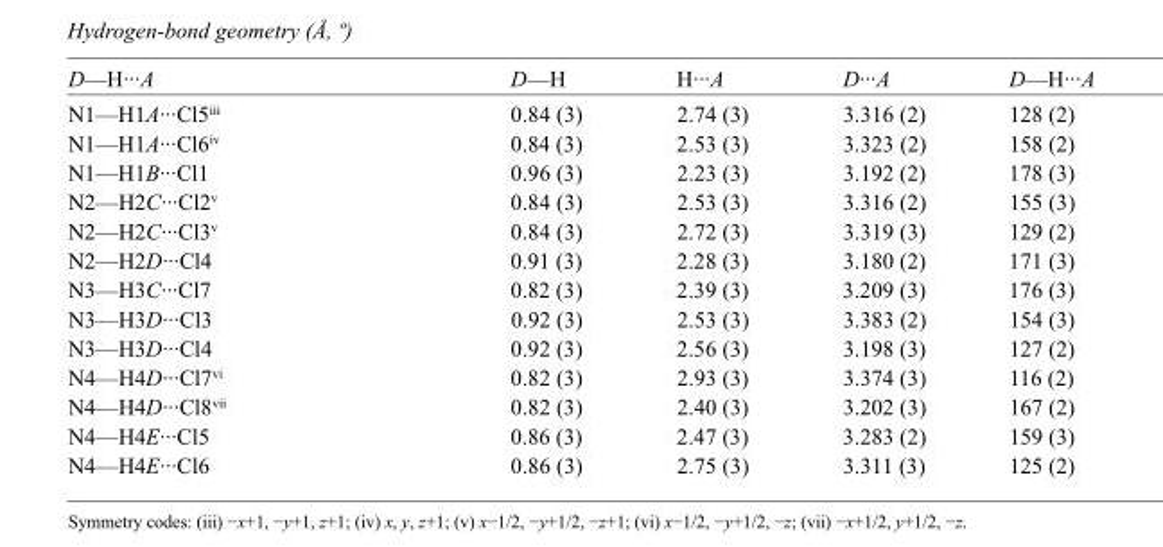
<table><tbody><tr><td>D—H···A</td><td>D—H</td><td>H···A</td><td>D···A</td><td>D—H···A</td></tr><tr><td>N1—H1A···Cl5<sup>iii</sup></td><td>0.84 (3)</td><td>2.74 (3)</td><td>3.316 (2)</td><td>128 (2)</td></tr><tr><td>N1—H1A···Cl6<sup>iv</sup></td><td>0.84 (3)</td><td>2.53 (3)</td><td>3.323 (2)</td><td>158 (2)</td></tr><tr><td>N1—H1B···Cl1</td><td>0.96 (3)</td><td>2.23 (3)</td><td>3.192 (2)</td><td>178 (3)</td></tr><tr><td>N2—H2C···Cl2<sup>v</sup></td><td>0.84 (3)</td><td>2.53 (3)</td><td>3.316 (2)</td><td>155 (3)</td></tr><tr><td>N2—H2C···Cl3<sup>v</sup></td><td>0.84 (3)</td><td>2.72 (3)</td><td>3.319 (3)</td><td>129 (2)</td></tr><tr><td>N2—H2D···Cl4</td><td>0.91 (3)</td><td>2.28 (3)</td><td>3.180 (2)</td><td>171 (3)</td></tr><tr><td>N3—H3C···Cl7</td><td>0.82 (3)</td><td>2.39 (3)</td><td>3.209 (3)</td><td>176 (3)</td></tr><tr><td>N3—H3D···Cl3</td><td>0.92 (3)</td><td>2.53 (3)</td><td>3.383 (2)</td><td>154 (3)</td></tr><tr><td>N3—H3D···Cl4</td><td>0.92 (3)</td><td>2.56 (3)</td><td>3.198 (3)</td><td>127 (2)</td></tr><tr><td>N4—H4D···Cl7<sup>vi</sup></td><td>0.82 (3)</td><td>2.93 (3)</td><td>3.374 (3)</td><td>116 (2)</td></tr><tr><td>N4—H4D···Cl8<sup>vii</sup></td><td>0.82 (3)</td><td>2.40 (3)</td><td>3.202 (3)</td><td>167 (2)</td></tr><tr><td>N4—H4E···Cl5</td><td>0.86 (3)</td><td>2.47 (3)</td><td>3.283 (2)</td><td>159 (3)</td></tr><tr><td>N4—H4E···Cl6</td><td>0.86 (3)</td><td>2.75 (3)</td><td>3.311 (3)</td><td>125 (2)</td></tr></tbody></table>